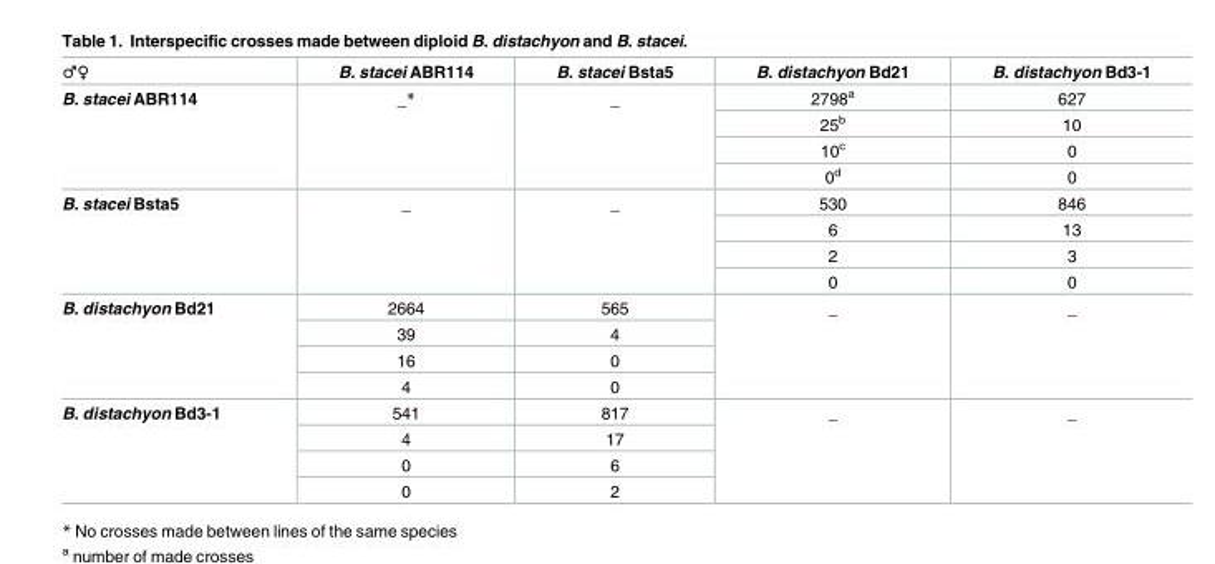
<table><thead><tr><td>♂♀</td><td>B. stacei ABR114</td><td>B. stacei Bsta5</td><td>B. distachyon Bd21</td><td>B. distachyon Bd3-1</td></tr></thead><tbody><tr><td rowspan="4">B. stacei ABR114</td><td rowspan="4">_*</td><td rowspan="4">_</td><td>2798<sup>a</sup></td><td>627</td></tr><tr><td>25<sup>b</sup></td><td>10</td></tr><tr><td>10<sup>c</sup></td><td>0</td></tr><tr><td>0<sup>d</sup></td><td>0</td></tr><tr><td rowspan="4">B. stacei Bsta5</td><td rowspan="4">_</td><td rowspan="4">_</td><td>530</td><td>846</td></tr><tr><td>6</td><td>13</td></tr><tr><td>2</td><td>3</td></tr><tr><td>0</td><td>0</td></tr><tr><td rowspan="4">B. distachyon Bd21</td><td>2664</td><td>565</td><td rowspan="4">_</td><td rowspan="4">_</td></tr><tr><td>39</td><td>4</td></tr><tr><td>16</td><td>0</td></tr><tr><td>4</td><td>0</td></tr><tr><td rowspan="4">B. distachyon Bd3-1</td><td>541</td><td>817</td><td rowspan="4">_</td><td rowspan="4">_</td></tr><tr><td>4</td><td>17</td></tr><tr><td>0</td><td>6</td></tr><tr><td>0</td><td>2</td></tr></tbody></table>